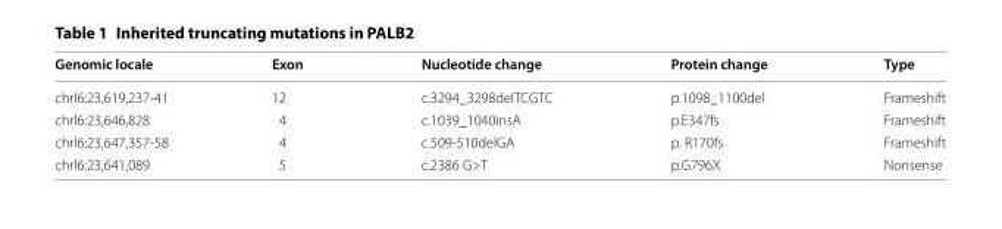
<table><thead><tr><td>Genomic locale</td><td>Exon</td><td>Nucleotide change</td><td>Protein change</td><td>Type</td></tr></thead><tbody><tr><td>chrl6:23,619,237-41</td><td>12</td><td>c.3294_3298delTCGTC</td><td>p.1098_1100del</td><td>Frameshift</td></tr><tr><td>chrl6:23,646,828</td><td>4</td><td>c.1039_1040insA</td><td>p.E347fs</td><td>Frameshift</td></tr><tr><td>chrl6:23,647,357-58</td><td>4</td><td>c.509-510delGA</td><td>p. R170fs</td><td>Frameshift</td></tr><tr><td>chrl6:23,641,089</td><td>5</td><td>c.2386 G&gt;T</td><td>p.G796X</td><td>Nonsense</td></tr></tbody></table>